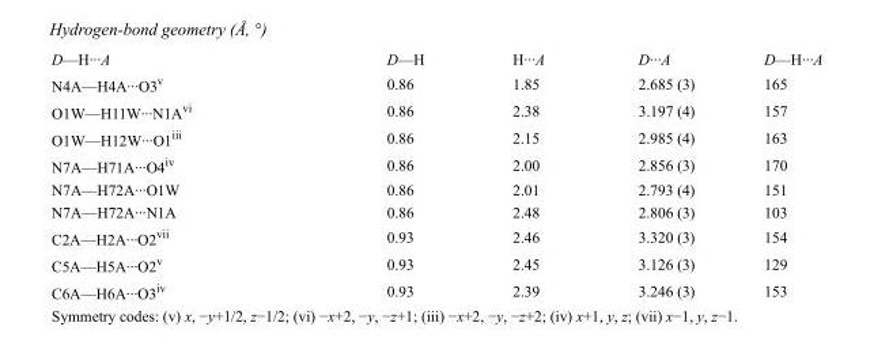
<table><tbody><tr><td>D—H···A</td><td>D—H</td><td>H···A</td><td>D···A</td><td>D—H···A</td></tr><tr><td>N4A—H4A···O3<sup>v</sup></td><td>0.86</td><td>1.85</td><td>2.685 (3)</td><td>165</td></tr><tr><td>O1W—H11W···N1A<sup>vi</sup></td><td>0.86</td><td>2.38</td><td>3.197 (4)</td><td>157</td></tr><tr><td>O1W—H12W···O1<sup>iii</sup></td><td>0.86</td><td>2.15</td><td>2.985 (4)</td><td>163</td></tr><tr><td>N7A—H71A···O4<sup>iv</sup></td><td>0.86</td><td>2.00</td><td>2.856 (3)</td><td>170</td></tr><tr><td>N7A—H72A···O1W</td><td>0.86</td><td>2.01</td><td>2.793 (4)</td><td>151</td></tr><tr><td>N7A—H72A···N1A</td><td>0.86</td><td>2.48</td><td>2.806 (3)</td><td>103</td></tr><tr><td>C2A—H2A···O2<sup>vii</sup></td><td>0.93</td><td>2.46</td><td>3.320 (3)</td><td>154</td></tr><tr><td>C5A—H5A···O2<sup>v</sup></td><td>0.93</td><td>2.45</td><td>3.126 (3)</td><td>129</td></tr><tr><td>C6A—H6A···O3<sup>iv</sup></td><td>0.93</td><td>2.39</td><td>3.246 (3)</td><td>153</td></tr></tbody></table>